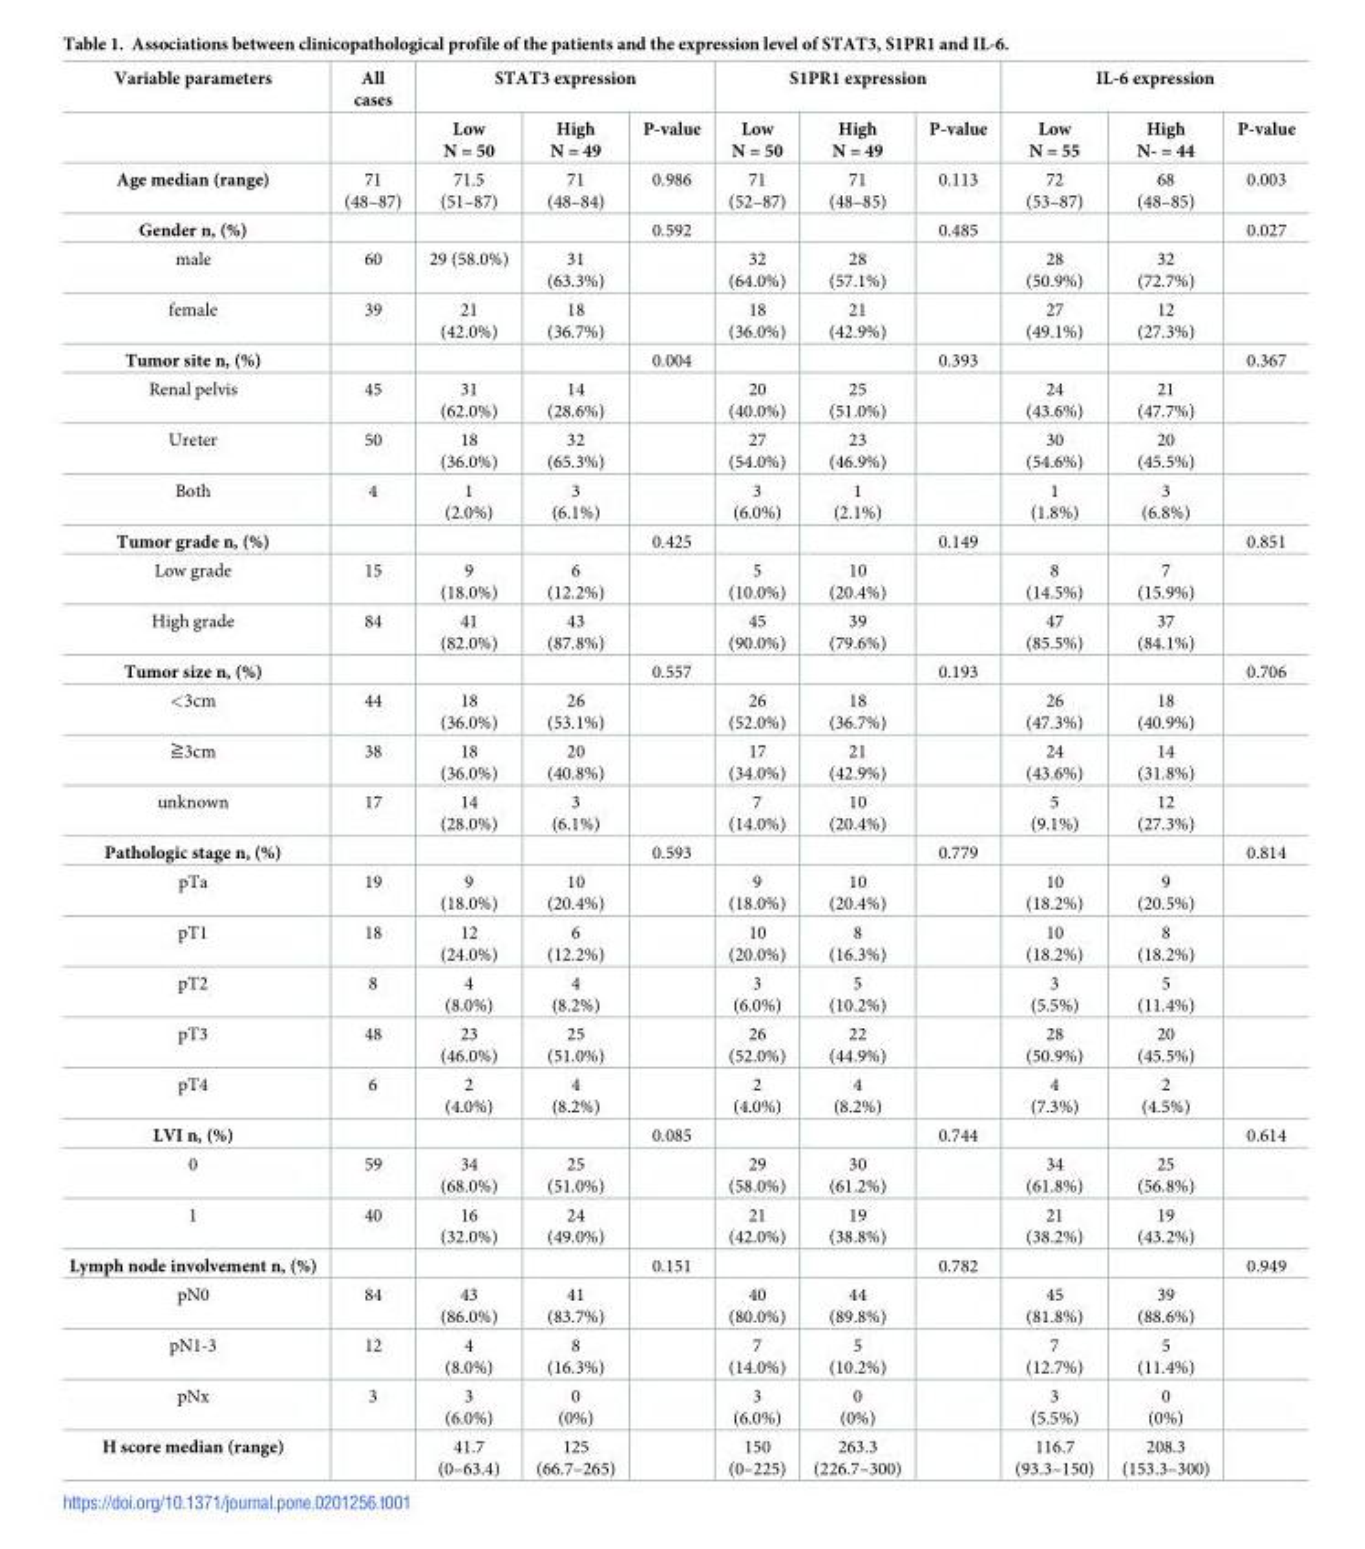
<table><thead><tr><td rowspan="2">Variable parameters</td><td rowspan="2">All cases</td><td colspan="3">STAT3 expression</td><td colspan="3">S1PR1 expression</td><td colspan="3">IL-6 expression</td></tr><tr><td>Low N = 50</td><td>High N = 49</td><td>P-value</td><td>Low N = 50</td><td>High N = 49</td><td>P-value</td><td>Low N = 55</td><td>High N- = 44</td><td>P-value</td></tr></thead><tbody><tr><td>Age median (range)</td><td>71 (48–87)</td><td>71.5 (51–87)</td><td>71 (48–84)</td><td>0.986</td><td>71 (52–87)</td><td>71 (48–85)</td><td>0.113</td><td>72 (53–87)</td><td>68 (48–85)</td><td>0.003</td></tr><tr><td>Gender n, (%)</td><td></td><td></td><td></td><td>0.592</td><td></td><td></td><td>0.485</td><td></td><td></td><td>0.027</td></tr><tr><td>male</td><td>60</td><td>29 (58.0%)</td><td>31 (63.3%)</td><td></td><td>32 (64.0%)</td><td>28 (57.1%)</td><td></td><td>28 (50.9%)</td><td>32 (72.7%)</td><td></td></tr><tr><td>female</td><td>39</td><td>21 (42.0%)</td><td>18 (36.7%)</td><td></td><td>18 (36.0%)</td><td>21 (42.9%)</td><td></td><td>27 (49.1%)</td><td>12 (27.3%)</td><td></td></tr><tr><td>Tumor site n, (%)</td><td></td><td></td><td></td><td>0.004</td><td></td><td></td><td>0.393</td><td></td><td></td><td>0.367</td></tr><tr><td>Renal pelvis</td><td>45</td><td>31 (62.0%)</td><td>14 (28.6%)</td><td></td><td>20 (40.0%)</td><td>25 (51.0%)</td><td></td><td>24 (43.6%)</td><td>21 (47.7%)</td><td></td></tr><tr><td>Ureter</td><td>50</td><td>18 (36.0%)</td><td>32 (65.3%)</td><td></td><td>27 (54.0%)</td><td>23 (46.9%)</td><td></td><td>30 (54.6%)</td><td>20 (45.5%)</td><td></td></tr><tr><td>Both</td><td>4</td><td>1 (2.0%)</td><td>3 (6.1%)</td><td></td><td>3 (6.0%)</td><td>1 (2.1%)</td><td></td><td>1 (1.8%)</td><td>3 (6.8%)</td><td></td></tr><tr><td>Tumor grade n, (%)</td><td></td><td></td><td></td><td>0.425</td><td></td><td></td><td>0.149</td><td></td><td></td><td>0.851</td></tr><tr><td>Low grade</td><td>15</td><td>9 (18.0%)</td><td>6 (12.2%)</td><td></td><td>5 (10.0%)</td><td>10 (20.4%)</td><td></td><td>8 (14.5%)</td><td>7 (15.9%)</td><td></td></tr><tr><td>High grade</td><td>84</td><td>41 (82.0%)</td><td>43 (87.8%)</td><td></td><td>45 (90.0%)</td><td>39 (79.6%)</td><td></td><td>47 (85.5%)</td><td>37 (84.1%)</td><td></td></tr><tr><td>Tumor size n, (%)</td><td></td><td></td><td></td><td>0.557</td><td></td><td></td><td>0.193</td><td></td><td></td><td>0.706</td></tr><tr><td>&lt;3cm</td><td>44</td><td>18 (36.0%)</td><td>26 (53.1%)</td><td></td><td>26 (52.0%)</td><td>18 (36.7%)</td><td></td><td>26 (47.3%)</td><td>18 (40.9%)</td><td></td></tr><tr><td>≧3cm</td><td>38</td><td>18 (36.0%)</td><td>20 (40.8%)</td><td></td><td>17 (34.0%)</td><td>21 (42.9%)</td><td></td><td>24 (43.6%)</td><td>14 (31.8%)</td><td></td></tr><tr><td>unknown</td><td>17</td><td>14 (28.0%)</td><td>3 (6.1%)</td><td></td><td>7 (14.0%)</td><td>10 (20.4%)</td><td></td><td>5 (9.1%)</td><td>12 (27.3%)</td><td></td></tr><tr><td>Pathologic stage n, (%)</td><td></td><td></td><td></td><td>0.593</td><td></td><td></td><td>0.779</td><td></td><td></td><td>0.814</td></tr><tr><td>pTa</td><td>19</td><td>9 (18.0%)</td><td>10 (20.4%)</td><td></td><td>9 (18.0%)</td><td>10 (20.4%)</td><td></td><td>10 (18.2%)</td><td>9 (20.5%)</td><td></td></tr><tr><td>pT1</td><td>18</td><td>12 (24.0%)</td><td>6 (12.2%)</td><td></td><td>10 (20.0%)</td><td>8 (16.3%)</td><td></td><td>10 (18.2%)</td><td>8 (18.2%)</td><td></td></tr><tr><td>pT2</td><td>8</td><td>4 (8.0%)</td><td>4 (8.2%)</td><td></td><td>3 (6.0%)</td><td>5 (10.2%)</td><td></td><td>3 (5.5%)</td><td>5 (11.4%)</td><td></td></tr><tr><td>pT3</td><td>48</td><td>23 (46.0%)</td><td>25 (51.0%)</td><td></td><td>26 (52.0%)</td><td>22 (44.9%)</td><td></td><td>28 (50.9%)</td><td>20 (45.5%)</td><td></td></tr><tr><td>pT4</td><td>6</td><td>2 (4.0%)</td><td>4 (8.2%)</td><td></td><td>2 (4.0%)</td><td>4 (8.2%)</td><td></td><td>4 (7.3%)</td><td>2 (4.5%)</td><td></td></tr><tr><td>LVI n, (%)</td><td></td><td></td><td></td><td>0.085</td><td></td><td></td><td>0.744</td><td></td><td></td><td>0.614</td></tr><tr><td>0</td><td>59</td><td>34 (68.0%)</td><td>25 (51.0%)</td><td></td><td>29 (58.0%)</td><td>30 (61.2%)</td><td></td><td>34 (61.8%)</td><td>25 (56.8%)</td><td></td></tr><tr><td>1</td><td>40</td><td>16 (32.0%)</td><td>24 (49.0%)</td><td></td><td>21 (42.0%)</td><td>19 (38.8%)</td><td></td><td>21 (38.2%)</td><td>19 (43.2%)</td><td></td></tr><tr><td>Lymph node involvement n, (%)</td><td></td><td></td><td></td><td>0.151</td><td></td><td></td><td>0.782</td><td></td><td></td><td>0.949</td></tr><tr><td>pN0</td><td>84</td><td>43 (86.0%)</td><td>41 (83.7%)</td><td></td><td>40 (80.0%)</td><td>44 (89.8%)</td><td></td><td>45 (81.8%)</td><td>39 (88.6%)</td><td></td></tr><tr><td>pN1-3</td><td>12</td><td>4 (8.0%)</td><td>8 (16.3%)</td><td></td><td>7 (14.0%)</td><td>5 (10.2%)</td><td></td><td>7 (12.7%)</td><td>5 (11.4%)</td><td></td></tr><tr><td>pNx</td><td>3</td><td>3 (6.0%)</td><td>0 (0%)</td><td></td><td>3 (6.0%)</td><td>0 (0%)</td><td></td><td>3 (5.5%)</td><td>0 (0%)</td><td></td></tr><tr><td>H score median (range)</td><td></td><td>41.7 (0–63.4)</td><td>125 (66.7–265)</td><td></td><td>150 (0–225)</td><td>263.3 (226.7–300)</td><td></td><td>116.7 (93.3–150)</td><td>208.3 (153.3–300)</td><td></td></tr></tbody></table>